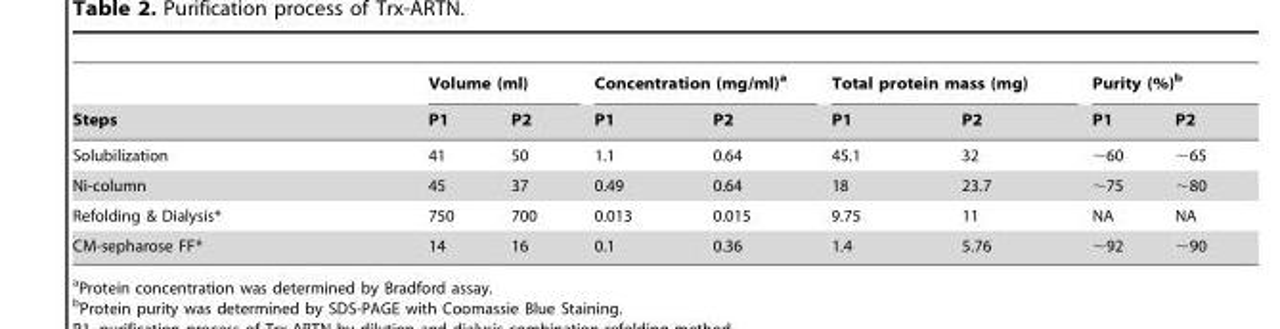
<table><thead><tr><td rowspan="2">Steps</td><td colspan="2">Volume (ml)</td><td colspan="2">Concentration (mg/ml)<sup>a</sup></td><td colspan="2">Total protein mass (mg)</td><td colspan="2">Purity (%)<sup>b</sup></td></tr><tr><td>P1</td><td>P2</td><td>P1</td><td>P2</td><td>P1</td><td>P2</td><td>P1</td><td>P2</td></tr></thead><tbody><tr><td>Solubilization</td><td>41</td><td>50</td><td>1.1</td><td>0.64</td><td>45.1</td><td>32</td><td>∼60</td><td>∼65</td></tr><tr><td>Ni-column</td><td>45</td><td>37</td><td>0.49</td><td>0.64</td><td>18</td><td>23.7</td><td>∼75</td><td>∼80</td></tr><tr><td>Refolding &amp; Dialysis*</td><td>750</td><td>700</td><td>0.013</td><td>0.015</td><td>9.75</td><td>11</td><td>NA</td><td>NA</td></tr><tr><td>CM-sepharose FF*</td><td>14</td><td>16</td><td>0.1</td><td>0.36</td><td>1.4</td><td>5.76</td><td>∼92</td><td>∼90</td></tr></tbody></table>